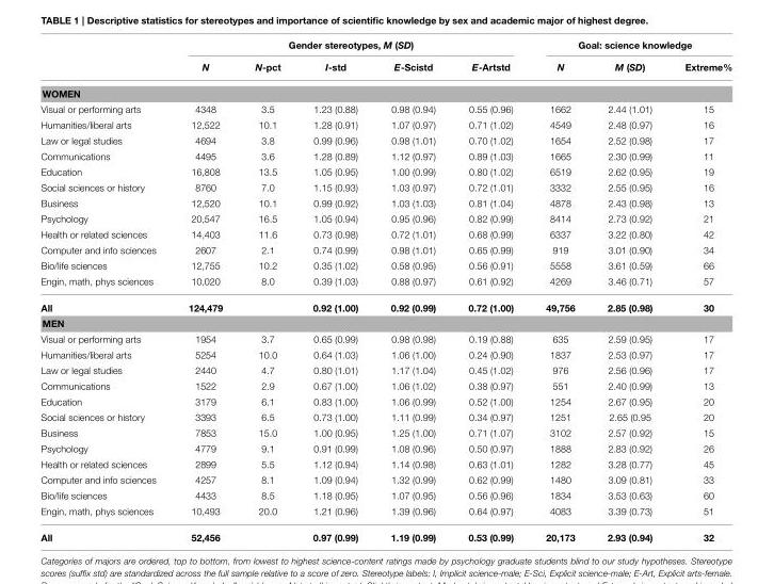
<table><thead><tr><td rowspan="2"></td><td colspan="5">Gender stereotypes, M (SD)</td><td colspan="3">Goal: science knowledge</td></tr><tr><td>N</td><td>N-pct</td><td>I-std</td><td>E-Scistd</td><td>E-Artstd</td><td>N</td><td>M (SD)</td><td>Extreme%</td></tr></thead><tbody><tr><td colspan="9">WOMEN</td></tr><tr><td>Visual or performing arts</td><td>4348</td><td>3.5</td><td>1.23 (0.88)</td><td>0.98 (0.94)</td><td>0.55 (0.96)</td><td>1662</td><td>2.44 (1.01)</td><td>15</td></tr><tr><td>Humanities/liberal arts</td><td>12,522</td><td>10.1</td><td>1.28 (0.91)</td><td>1.07 (0.97)</td><td>0.71 (1.02)</td><td>4549</td><td>2.48 (0.97)</td><td>16</td></tr><tr><td>Law or legal studies</td><td>4694</td><td>3.8</td><td>0.99 (0.96)</td><td>0.98 (1.01)</td><td>0.70 (1.02)</td><td>1654</td><td>2.52 (0.98)</td><td>17</td></tr><tr><td>Communications</td><td>4495</td><td>3.6</td><td>1.28 (0.89)</td><td>1.12 (0.97)</td><td>0.89 (1.03)</td><td>1665</td><td>2.30 (0.99)</td><td>11</td></tr><tr><td>Education</td><td>16,808</td><td>13.5</td><td>1.05 (0.95)</td><td>1.00 (0.99)</td><td>0.80 (1.02)</td><td>6519</td><td>2.62 (0.95)</td><td>19</td></tr><tr><td>Social sciences or history</td><td>8760</td><td>7.0</td><td>1.15 (0.93)</td><td>1.03 (0.97)</td><td>0.72 (1.01)</td><td>3332</td><td>2.55 (0.95)</td><td>16</td></tr><tr><td>Business</td><td>12,520</td><td>10.1</td><td>0.99 (0.92)</td><td>1.03 (1.03)</td><td>0.81 (1.04)</td><td>4878</td><td>2.43 (0.98)</td><td>13</td></tr><tr><td>Psychology</td><td>20,547</td><td>16.5</td><td>1.05 (0.94)</td><td>0.95 (0.96)</td><td>0.82 (0.99)</td><td>8414</td><td>2.73 (0.92)</td><td>21</td></tr><tr><td>Health or related sciences</td><td>14,403</td><td>11.6</td><td>0.73 (0.98)</td><td>0.72 (1.01)</td><td>0.68 (0.99)</td><td>6337</td><td>3.22 (0.80)</td><td>42</td></tr><tr><td>Computer and info sciences</td><td>2607</td><td>2.1</td><td>0.74 (0.99)</td><td>0.98 (1.01)</td><td>0.65 (0.99)</td><td>919</td><td>3.01 (0.90)</td><td>34</td></tr><tr><td>Bio/life sciences</td><td>12,755</td><td>10.2</td><td>0.35 (1.02)</td><td>0.58 (0.95)</td><td>0.56 (0.91)</td><td>5558</td><td>3.61 (0.59)</td><td>66</td></tr><tr><td>Engin, math, phys sciences</td><td>10,020</td><td>8.0</td><td>0.39 (1.03)</td><td>0.88 (0.97)</td><td>0.61 (0.92)</td><td>4269</td><td>3.46 (0.71)</td><td>57</td></tr><tr><td>All</td><td>124,479</td><td></td><td>0.92 (1.00)</td><td>0.92 (0.99)</td><td>0.72 (1.00)</td><td>49,756</td><td>2.85 (0.98)</td><td>30</td></tr><tr><td colspan="9">MEN</td></tr><tr><td>Visual or performing arts</td><td>1954</td><td>3.7</td><td>0.65 (0.99)</td><td>0.98 (0.98)</td><td>0.19 (0.88)</td><td>635</td><td>2.59 (0.95)</td><td>17</td></tr><tr><td>Humanities/liberal arts</td><td>5254</td><td>10.0</td><td>0.64 (1.03)</td><td>1.06 (1.00)</td><td>0.24 (0.90)</td><td>1837</td><td>2.53 (0.97)</td><td>17</td></tr><tr><td>Law or legal studies</td><td>2440</td><td>4.7</td><td>0.80 (1.01)</td><td>1.17 (1.04)</td><td>0.45 (1.02)</td><td>976</td><td>2.56 (0.96)</td><td>17</td></tr><tr><td>Communications</td><td>1522</td><td>2.9</td><td>0.67 (1.00)</td><td>1.06 (1.02)</td><td>0.38 (0.97)</td><td>551</td><td>2.40 (0.99)</td><td>13</td></tr><tr><td>Education</td><td>3179</td><td>6.1</td><td>0.83 (1.00)</td><td>1.06 (0.99)</td><td>0.52 (1.00)</td><td>1254</td><td>2.67 (0.95)</td><td>20</td></tr><tr><td>Social sciences or history</td><td>3393</td><td>6.5</td><td>0.73 (1.00)</td><td>1.11 (0.99)</td><td>0.34 (0.97)</td><td>1251</td><td>2.65 (0.95</td><td>20</td></tr><tr><td>Business</td><td>7853</td><td>15.0</td><td>1.00 (0.95)</td><td>1.25 (1.00)</td><td>0.71 (1.07)</td><td>3102</td><td>2.57 (0.92)</td><td>15</td></tr><tr><td>Psychology</td><td>4779</td><td>9.1</td><td>0.91 (0.99)</td><td>1.08 (0.96)</td><td>0.50 (0.97)</td><td>1888</td><td>2.83 (0.92)</td><td>26</td></tr><tr><td>Health or related sciences</td><td>2899</td><td>5.5</td><td>1.12 (0.94)</td><td>1.14 (0.98)</td><td>0.63 (1.01)</td><td>1282</td><td>3.28 (0.77)</td><td>45</td></tr><tr><td>Computer and info sciences</td><td>4257</td><td>8.1</td><td>1.09 (0.94)</td><td>1.32 (0.99)</td><td>0.62 (0.99)</td><td>1480</td><td>3.09 (0.81)</td><td>33</td></tr><tr><td>Bio/life sciences</td><td>4433</td><td>8.5</td><td>1.18 (0.95)</td><td>1.07 (0.95)</td><td>0.56 (0.96)</td><td>1834</td><td>3.53 (0.63)</td><td>60</td></tr><tr><td>Engin, math, phys sciences</td><td>10,493</td><td>20.0</td><td>1.21 (0.96)</td><td>1.39 (0.96)</td><td>0.64 (0.97)</td><td>4083</td><td>3.39 (0.73)</td><td>51</td></tr><tr><td>All</td><td>52,456</td><td></td><td>0.97 (0.99)</td><td>1.19 (0.99)</td><td>0.53 (0.99)</td><td>20,173</td><td>2.93 (0.94)</td><td>32</td></tr></tbody></table>